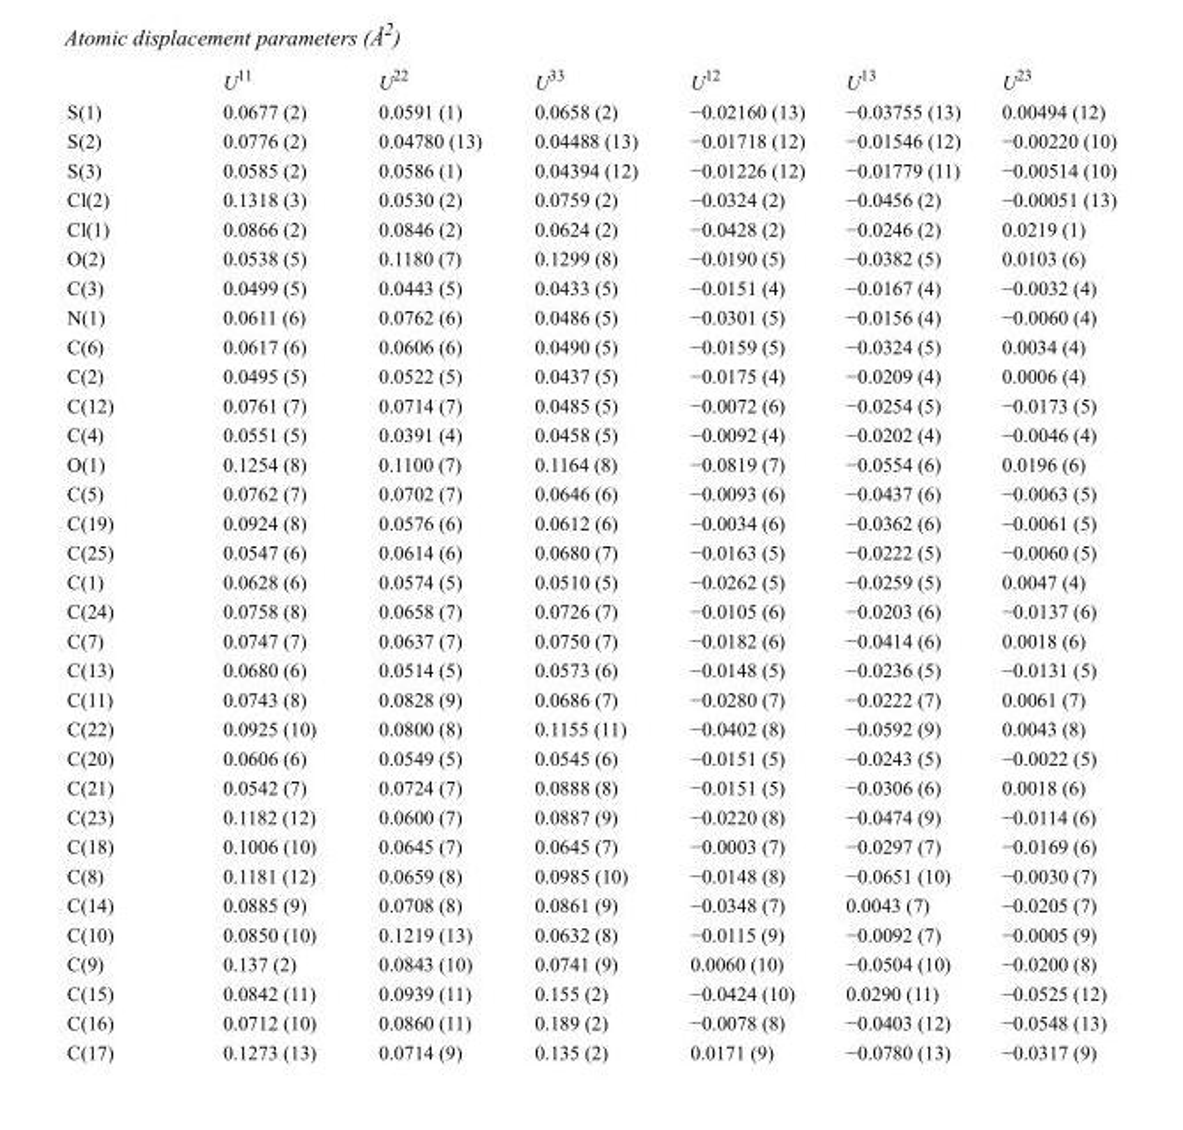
<table><thead><tr><td></td><td>U<sup>11</sup></td><td>U<sup>22</sup></td><td>U<sup>33</sup></td><td>U<sup>12</sup></td><td>U<sup>13</sup></td><td>U<sup>23</sup></td></tr></thead><tbody><tr><td>S(1)</td><td>0.0677 (2)</td><td>0.0591 (1)</td><td>0.0658 (2)</td><td>−0.02160 (13)</td><td>−0.03755 (13)</td><td>0.00494 (12)</td></tr><tr><td>S(2)</td><td>0.0776 (2)</td><td>0.04780 (13)</td><td>0.04488 (13)</td><td>−0.01718 (12)</td><td>−0.01546 (12)</td><td>−0.00220 (10)</td></tr><tr><td>S(3)</td><td>0.0585 (2)</td><td>0.0586 (1)</td><td>0.04394 (12)</td><td>−0.01226 (12)</td><td>−0.01779 (11)</td><td>−0.00514 (10)</td></tr><tr><td>Cl(2)</td><td>0.1318 (3)</td><td>0.0530 (2)</td><td>0.0759 (2)</td><td>−0.0324 (2)</td><td>−0.0456 (2)</td><td>−0.00051 (13)</td></tr><tr><td>Cl(1)</td><td>0.0866 (2)</td><td>0.0846 (2)</td><td>0.0624 (2)</td><td>−0.0428 (2)</td><td>−0.0246 (2)</td><td>0.0219 (1)</td></tr><tr><td>O(2)</td><td>0.0538 (5)</td><td>0.1180 (7)</td><td>0.1299 (8)</td><td>−0.0190 (5)</td><td>−0.0382 (5)</td><td>0.0103 (6)</td></tr><tr><td>C(3)</td><td>0.0499 (5)</td><td>0.0443 (5)</td><td>0.0433 (5)</td><td>−0.0151 (4)</td><td>−0.0167 (4)</td><td>−0.0032 (4)</td></tr><tr><td>N(1)</td><td>0.0611 (6)</td><td>0.0762 (6)</td><td>0.0486 (5)</td><td>−0.0301 (5)</td><td>−0.0156 (4)</td><td>−0.0060 (4)</td></tr><tr><td>C(6)</td><td>0.0617 (6)</td><td>0.0606 (6)</td><td>0.0490 (5)</td><td>−0.0159 (5)</td><td>−0.0324 (5)</td><td>0.0034 (4)</td></tr><tr><td>C(2)</td><td>0.0495 (5)</td><td>0.0522 (5)</td><td>0.0437 (5)</td><td>−0.0175 (4)</td><td>−0.0209 (4)</td><td>0.0006 (4)</td></tr><tr><td>C(12)</td><td>0.0761 (7)</td><td>0.0714 (7)</td><td>0.0485 (5)</td><td>−0.0072 (6)</td><td>−0.0254 (5)</td><td>−0.0173 (5)</td></tr><tr><td>C(4)</td><td>0.0551 (5)</td><td>0.0391 (4)</td><td>0.0458 (5)</td><td>−0.0092 (4)</td><td>−0.0202 (4)</td><td>−0.0046 (4)</td></tr><tr><td>O(1)</td><td>0.1254 (8)</td><td>0.1100 (7)</td><td>0.1164 (8)</td><td>−0.0819 (7)</td><td>−0.0554 (6)</td><td>0.0196 (6)</td></tr><tr><td>C(5)</td><td>0.0762 (7)</td><td>0.0702 (7)</td><td>0.0646 (6)</td><td>−0.0093 (6)</td><td>−0.0437 (6)</td><td>−0.0063 (5)</td></tr><tr><td>C(19)</td><td>0.0924 (8)</td><td>0.0576 (6)</td><td>0.0612 (6)</td><td>−0.0034 (6)</td><td>−0.0362 (6)</td><td>−0.0061 (5)</td></tr><tr><td>C(25)</td><td>0.0547 (6)</td><td>0.0614 (6)</td><td>0.0680 (7)</td><td>−0.0163 (5)</td><td>−0.0222 (5)</td><td>−0.0060 (5)</td></tr><tr><td>C(1)</td><td>0.0628 (6)</td><td>0.0574 (5)</td><td>0.0510 (5)</td><td>−0.0262 (5)</td><td>−0.0259 (5)</td><td>0.0047 (4)</td></tr><tr><td>C(24)</td><td>0.0758 (8)</td><td>0.0658 (7)</td><td>0.0726 (7)</td><td>−0.0105 (6)</td><td>−0.0203 (6)</td><td>−0.0137 (6)</td></tr><tr><td>C(7)</td><td>0.0747 (7)</td><td>0.0637 (7)</td><td>0.0750 (7)</td><td>−0.0182 (6)</td><td>−0.0414 (6)</td><td>0.0018 (6)</td></tr><tr><td>C(13)</td><td>0.0680 (6)</td><td>0.0514 (5)</td><td>0.0573 (6)</td><td>−0.0148 (5)</td><td>−0.0236 (5)</td><td>−0.0131 (5)</td></tr><tr><td>C(11)</td><td>0.0743 (8)</td><td>0.0828 (9)</td><td>0.0686 (7)</td><td>−0.0280 (7)</td><td>−0.0222 (7)</td><td>0.0061 (7)</td></tr><tr><td>C(22)</td><td>0.0925 (10)</td><td>0.0800 (8)</td><td>0.1155 (11)</td><td>−0.0402 (8)</td><td>−0.0592 (9)</td><td>0.0043 (8)</td></tr><tr><td>C(20)</td><td>0.0606 (6)</td><td>0.0549 (5)</td><td>0.0545 (6)</td><td>−0.0151 (5)</td><td>−0.0243 (5)</td><td>−0.0022 (5)</td></tr><tr><td>C(21)</td><td>0.0542 (7)</td><td>0.0724 (7)</td><td>0.0888 (8)</td><td>−0.0151 (5)</td><td>−0.0306 (6)</td><td>0.0018 (6)</td></tr><tr><td>C(23)</td><td>0.1182 (12)</td><td>0.0600 (7)</td><td>0.0887 (9)</td><td>−0.0220 (8)</td><td>−0.0474 (9)</td><td>−0.0114 (6)</td></tr><tr><td>C(18)</td><td>0.1006 (10)</td><td>0.0645 (7)</td><td>0.0645 (7)</td><td>−0.0003 (7)</td><td>−0.0297 (7)</td><td>−0.0169 (6)</td></tr><tr><td>C(8)</td><td>0.1181 (12)</td><td>0.0659 (8)</td><td>0.0985 (10)</td><td>−0.0148 (8)</td><td>−0.0651 (10)</td><td>−0.0030 (7)</td></tr><tr><td>C(14)</td><td>0.0885 (9)</td><td>0.0708 (8)</td><td>0.0861 (9)</td><td>−0.0348 (7)</td><td>0.0043 (7)</td><td>−0.0205 (7)</td></tr><tr><td>C(10)</td><td>0.0850 (10)</td><td>0.1219 (13)</td><td>0.0632 (8)</td><td>−0.0115 (9)</td><td>−0.0092 (7)</td><td>−0.0005 (9)</td></tr><tr><td>C(9)</td><td>0.137 (2)</td><td>0.0843 (10)</td><td>0.0741 (9)</td><td>0.0060 (10)</td><td>−0.0504 (10)</td><td>−0.0200 (8)</td></tr><tr><td>C(15)</td><td>0.0842 (11)</td><td>0.0939 (11)</td><td>0.155 (2)</td><td>−0.0424 (10)</td><td>0.0290 (11)</td><td>−0.0525 (12)</td></tr><tr><td>C(16)</td><td>0.0712 (10)</td><td>0.0860 (11)</td><td>0.189 (2)</td><td>−0.0078 (8)</td><td>−0.0403 (12)</td><td>−0.0548 (13)</td></tr><tr><td>C(17)</td><td>0.1273 (13)</td><td>0.0714 (9)</td><td>0.135 (2)</td><td>0.0171 (9)</td><td>−0.0780 (13)</td><td>−0.0317 (9)</td></tr></tbody></table>